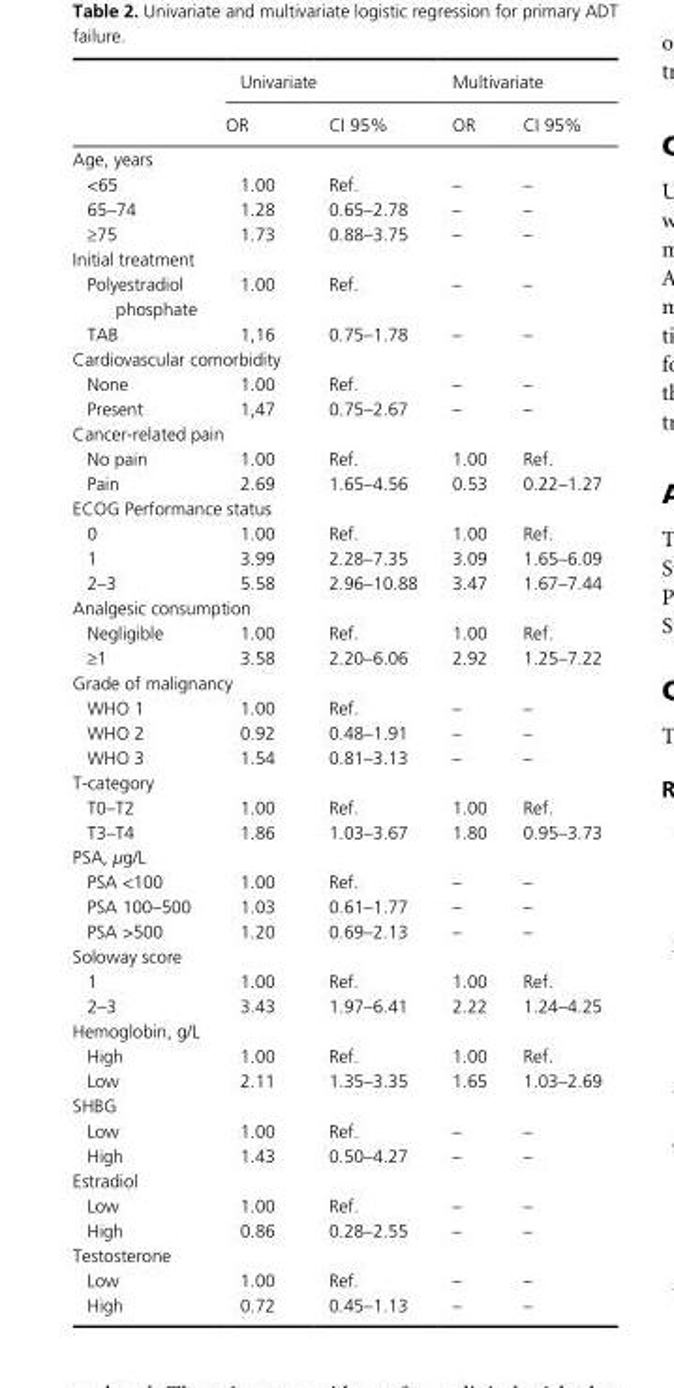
<table><thead><tr><td rowspan="2"></td><td colspan="2">Univariate</td><td colspan="2">Multivariate</td></tr><tr><td>OR</td><td>CI 95%</td><td>OR</td><td>CI 95%</td></tr></thead><tbody><tr><td colspan="5">Age, years</td></tr><tr><td>&lt;65</td><td>1.00</td><td>Ref.</td><td>–</td><td>–</td></tr><tr><td>65–74</td><td>1.28</td><td>0.65–2.78</td><td>–</td><td>–</td></tr><tr><td>≥75</td><td>1.73</td><td>0.88–3.75</td><td>–</td><td>–</td></tr><tr><td colspan="5">Initial treatment</td></tr><tr><td>Polyestradiol phosphate</td><td>1.00</td><td>Ref.</td><td>–</td><td>–</td></tr><tr><td>TAB</td><td>1,16</td><td>0.75–1.78</td><td>–</td><td>–</td></tr><tr><td colspan="5">Cardiovascular comorbidity</td></tr><tr><td>None</td><td>1.00</td><td>Ref.</td><td>–</td><td>–</td></tr><tr><td>Present</td><td>1,47</td><td>0.75–2.67</td><td>–</td><td>–</td></tr><tr><td colspan="5">Cancer- related pain</td></tr><tr><td>No pain</td><td>1.00</td><td>Ref.</td><td>1.00</td><td>Ref.</td></tr><tr><td>Pain</td><td>2.69</td><td>1.65–4.56</td><td>0.53</td><td>0.22–1.27</td></tr><tr><td colspan="5">ECOG Performance status</td></tr><tr><td>0</td><td>1.00</td><td>Ref.</td><td>1.00</td><td>Ref.</td></tr><tr><td>1</td><td>3.99</td><td>2.28–7.35</td><td>3.09</td><td>1.65–6.09</td></tr><tr><td>2–3</td><td>5.58</td><td>2.96–10.88</td><td>3.47</td><td>1.67–7.44</td></tr><tr><td colspan="5">Analgesic consumption</td></tr><tr><td>Negligible</td><td>1.00</td><td>Ref.</td><td>1.00</td><td>Ref.</td></tr><tr><td>≥1</td><td>3.58</td><td>2.20–6.06</td><td>2.92</td><td>1.25–7.22</td></tr><tr><td colspan="5">Grade of malignancy</td></tr><tr><td>WHO 1</td><td>1.00</td><td>Ref.</td><td>–</td><td>–</td></tr><tr><td>WHO 2</td><td>0.92</td><td>0.48–1.91</td><td>–</td><td>–</td></tr><tr><td>WHO 3</td><td>1.54</td><td>0.81–3.13</td><td>–</td><td>–</td></tr><tr><td colspan="5">T- category</td></tr><tr><td>T0–T2</td><td>1.00</td><td>Ref.</td><td>1.00</td><td>Ref.</td></tr><tr><td>T3–T4</td><td>1.86</td><td>1.03–3.67</td><td>1.80</td><td>0.95–3.73</td></tr><tr><td colspan="5">PSA, μg/L</td></tr><tr><td>PSA &lt;100</td><td>1.00</td><td>Ref.</td><td>–</td><td>–</td></tr><tr><td>PSA 100–500</td><td>1.03</td><td>0.61–1.77</td><td>–</td><td>–</td></tr><tr><td>PSA &gt;500</td><td>1.20</td><td>0.69–2.13</td><td>–</td><td>–</td></tr><tr><td colspan="5">Soloway score</td></tr><tr><td>1</td><td>1.00</td><td>Ref.</td><td>1.00</td><td>Ref.</td></tr><tr><td>2–3</td><td>3.43</td><td>1.97–6.41</td><td>2.22</td><td>1.24–4.25</td></tr><tr><td colspan="5">Hemoglobin, g/L</td></tr><tr><td>High</td><td>1.00</td><td>Ref.</td><td>1.00</td><td>Ref.</td></tr><tr><td>Low</td><td>2.11</td><td>1.35–3.35</td><td>1.65</td><td>1.03–2.69</td></tr><tr><td colspan="5">SHBG</td></tr><tr><td>Low</td><td>1.00</td><td>Ref.</td><td>–</td><td>–</td></tr><tr><td>High</td><td>1.43</td><td>0.50–4.27</td><td>–</td><td>–</td></tr><tr><td colspan="5">Estradiol</td></tr><tr><td>Low</td><td>1.00</td><td>Ref.</td><td>–</td><td>–</td></tr><tr><td>High</td><td>0.86</td><td>0.28–2.55</td><td>–</td><td>–</td></tr><tr><td colspan="5">Testosterone</td></tr><tr><td>Low</td><td>1.00</td><td>Ref.</td><td>–</td><td>–</td></tr><tr><td>High</td><td>0.72</td><td>0.45–1.13</td><td>–</td><td>–</td></tr></tbody></table>